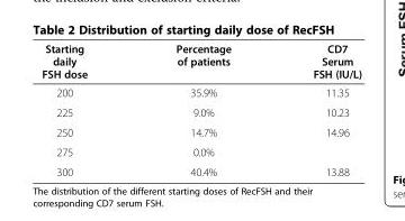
<table><thead><tr><td>Starting daily FSH dose</td><td>Percentage of patients</td><td>CD7 Serum FSH (IU/L)</td></tr></thead><tbody><tr><td>200</td><td>35.9%</td><td>11.35</td></tr><tr><td>225</td><td>9.0%</td><td>10.23</td></tr><tr><td>250</td><td>14.7%</td><td>14.96</td></tr><tr><td>275</td><td>0.0%</td><td></td></tr><tr><td>300</td><td>40.4%</td><td>13.88</td></tr></tbody></table>